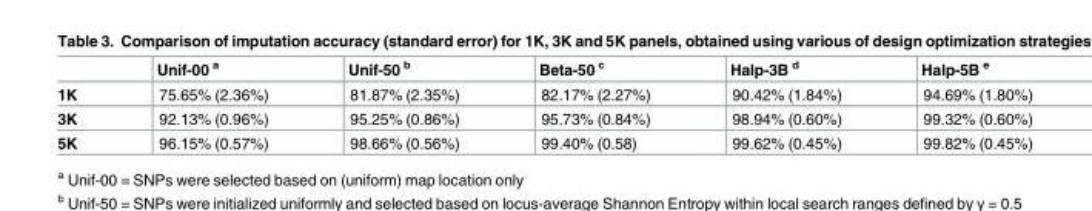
<table><thead><tr><td></td><td>Unif-00 <sup>a</sup></td><td>Unif-50 <sup>b</sup></td><td>Beta-50 <sup>c</sup></td><td>Halp-3B <sup>d</sup></td><td>Halp-5B <sup>e</sup></td></tr></thead><tbody><tr><td>1K</td><td>75.65% (2.36%)</td><td>81.87% (2.35%)</td><td>82.17% (2.27%)</td><td>90.42% (1.84%)</td><td>94.69% (1.80%)</td></tr><tr><td>3K</td><td>92.13% (0.96%)</td><td>95.25% (0.86%)</td><td>95.73% (0.84%)</td><td>98.94% (0.60%)</td><td>99.32% (0.60%)</td></tr><tr><td>5K</td><td>96.15% (0.57%)</td><td>98.66% (0.56%)</td><td>99.40% (0.58)</td><td>99.62% (0.45%)</td><td>99.82% (0.45%)</td></tr></tbody></table>